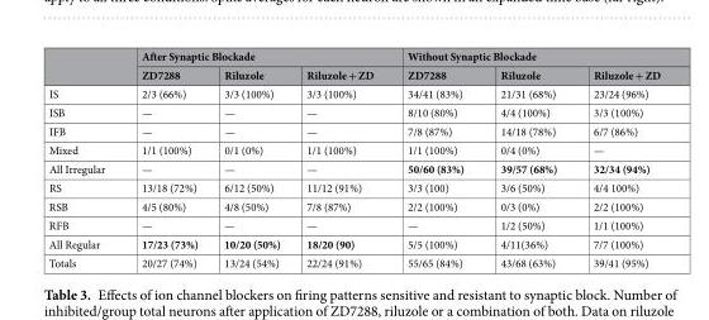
<table><thead><tr><td rowspan="2"></td><td colspan="3">After Synaptic Blockade</td><td colspan="3">Without Synaptic Blockade</td></tr><tr><td>ZD7288</td><td>Riluzole</td><td>Riluzole + ZD</td><td>ZD7288</td><td>Riluzole</td><td>Riluzole + ZD</td></tr></thead><tbody><tr><td>IS</td><td>2/3 (66%)</td><td>3/3 (100%)</td><td>3/3 (100%)</td><td>34/41 (83%)</td><td>21/31 (68%)</td><td>23/24 (96%)</td></tr><tr><td>ISB</td><td>—</td><td>—</td><td>—</td><td>8/10 (80%)</td><td>4/4 (100%)</td><td>3/3 (100%)</td></tr><tr><td>IFB</td><td>—</td><td>—</td><td>—</td><td>7/8 (87%)</td><td>14/18 (78%)</td><td>6/7 (86%)</td></tr><tr><td>Mixed</td><td>1/1 (100%)</td><td>0/1 (0%)</td><td>1/1 (100%)</td><td>1/1 (100%)</td><td>0/4 (0%)</td><td>—</td></tr><tr><td>All Irregular</td><td>—</td><td>—</td><td>—</td><td>50/60 (83%)</td><td>39/57 (68%)</td><td>32/34 (94%)</td></tr><tr><td>RS</td><td>13/18 (72%)</td><td>6/12 (50%)</td><td>11/12 (91%)</td><td>3/3 (100)</td><td>3/6 (50%)</td><td>4/4 100%)</td></tr><tr><td>RSB</td><td>4/5 (80%)</td><td>4/8 (50%)</td><td>7/8 (87%)</td><td>2/2 (100%)</td><td>0/3 (0%)</td><td>2/2 (100%)</td></tr><tr><td>RFB</td><td>—</td><td>—</td><td>—</td><td>—</td><td>1/2 (50%)</td><td>1/1 (100%)</td></tr><tr><td>All Regular</td><td>17/23 (73%)</td><td>10/20 (50%)</td><td>18/20 (90)</td><td>5/5 (100%)</td><td>4/11(36%)</td><td>7/7 (100%)</td></tr><tr><td>Totals</td><td>20/27 (74%)</td><td>13/24 (54%)</td><td>22/24 (91%)</td><td>55/65 (84%)</td><td>43/68 (63%)</td><td>39/41 (95%)</td></tr></tbody></table>